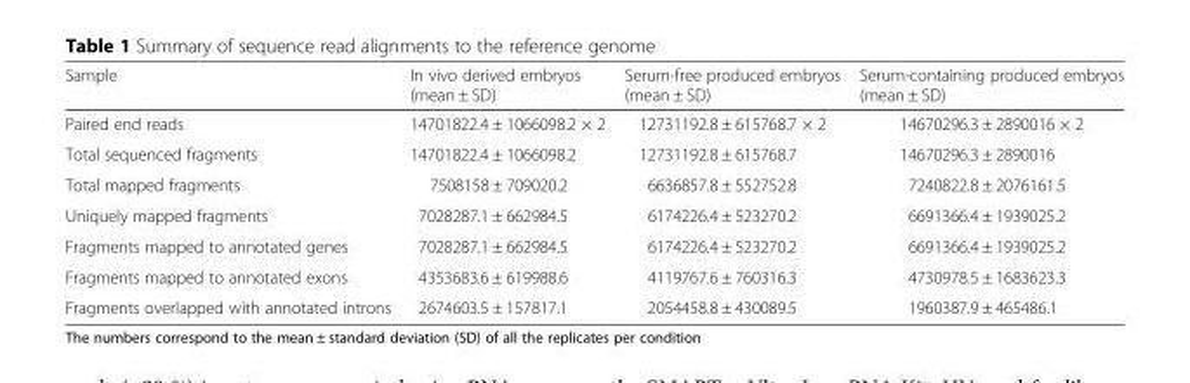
<table><thead><tr><td>Sample</td><td>In vivo derived embryos (mean ± SD)</td><td>Serum-free produced embryos (mean ± SD)</td><td>Serum-containing produced embryos (mean ± SD)</td></tr></thead><tbody><tr><td>Paired end reads</td><td>14701822.4 ± 1066098.2 × 2</td><td>12731192.8 ± 615768.7 × 2</td><td>14670296.3 ± 2890016 × 2</td></tr><tr><td>Total sequenced fragments</td><td>14701822.4 ± 1066098.2</td><td>12731192.8 ± 615768.7</td><td>14670296.3 ± 2890016</td></tr><tr><td>Total mapped fragments</td><td>7508158 ± 709020.2</td><td>6636857.8 ± 552752.8</td><td>7240822.8 ± 2076161.5</td></tr><tr><td>Uniquely mapped fragments</td><td>7028287.1 ± 662984.5</td><td>6174226.4 ± 523270.2</td><td>6691366.4 ± 1939025.2</td></tr><tr><td>Fragments mapped to annotated genes</td><td>7028287.1 ± 662984.5</td><td>6174226.4 ± 523270.2</td><td>6691366.4 ± 1939025.2</td></tr><tr><td>Fragments mapped to annotated exons</td><td>4353683.6 ± 619988.6</td><td>4119767.6 ± 760316.3</td><td>4730978.5 ± 1683623.3</td></tr><tr><td>Fragments overlapped with annotated introns</td><td>2674603.5 ± 157817.1</td><td>2054458.8 ± 430089.5</td><td>1960387.9 ± 465486.1</td></tr></tbody></table>